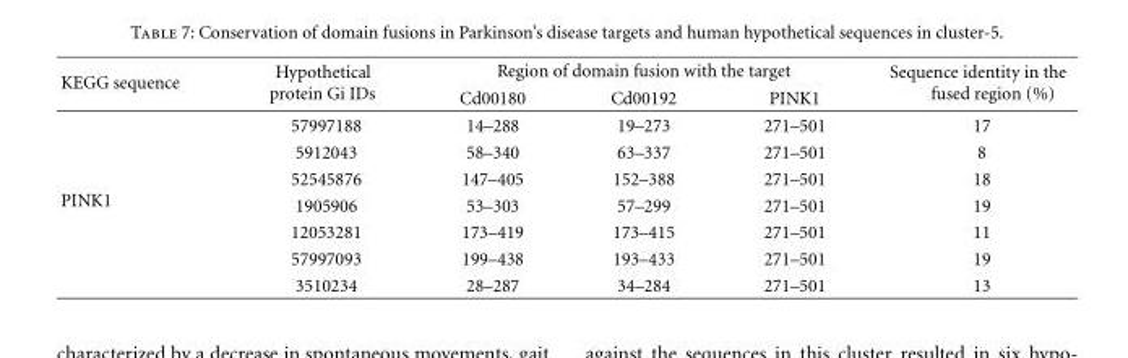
<table><thead><tr><td rowspan="2">KEGG sequence</td><td rowspan="2">Hypothetical protein Gi IDs</td><td colspan="3">Region of domain fusion with the target</td><td rowspan="2">Sequence identity in the fused region (%)</td></tr><tr><td>Cd00180</td><td>Cd00192</td><td>PINK1</td></tr></thead><tbody><tr><td rowspan="7">PINK1</td><td>57997188</td><td>14–288</td><td>19–273</td><td>271–501</td><td>17</td></tr><tr><td>5912043</td><td>58–340</td><td>63–337</td><td>271–501</td><td>8</td></tr><tr><td>52545876</td><td>147–405</td><td>152–388</td><td>271–501</td><td>18</td></tr><tr><td>1905906</td><td>53–303</td><td>57–299</td><td>271–501</td><td>19</td></tr><tr><td>12053281</td><td>173–419</td><td>173–415</td><td>271–501</td><td>11</td></tr><tr><td>57997093</td><td>199–438</td><td>193–433</td><td>271–501</td><td>19</td></tr><tr><td>3510234</td><td>28–287</td><td>34–284</td><td>271–501</td><td>13</td></tr></tbody></table>